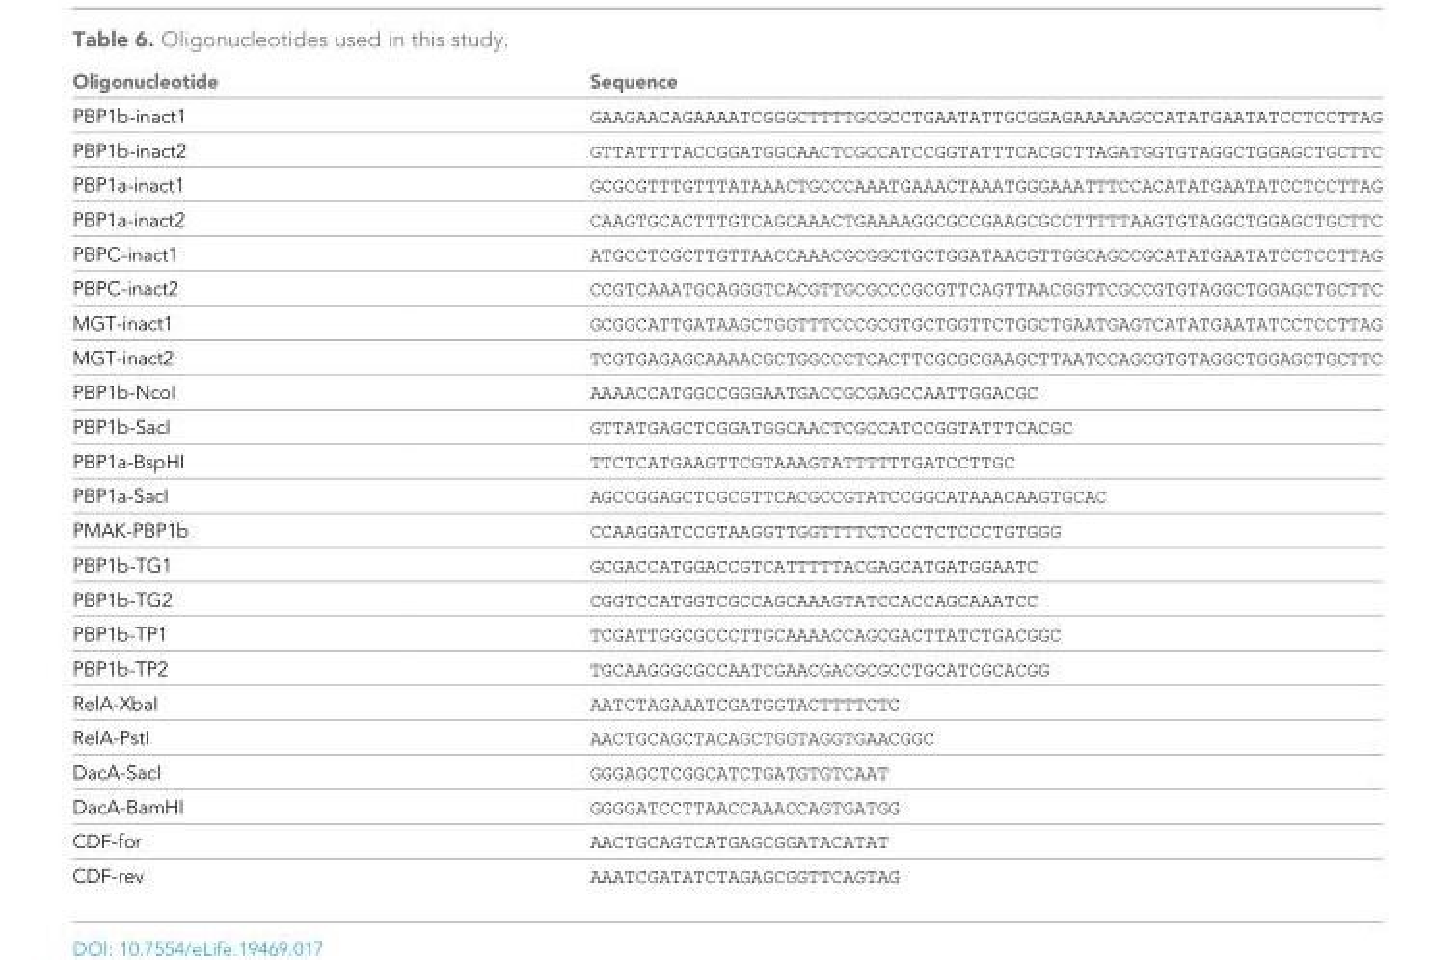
<table><thead><tr><td>Oligonucleotide</td><td>Sequence</td></tr></thead><tbody><tr><td>PBP1b-inact1</td><td>GAAGAACAGAAAATCGGGCTTTTGCGCCTGAATATTGCGGAGAAAAAGCCATATGAATATCCTCCTTAG</td></tr><tr><td>PBP1b-inact2</td><td>GTTATTTTACCGGATGGCAACTCGCCATCCGGTATTTCACGCTTAGATGGTGTAGGCTGGAGCTGCTTC</td></tr><tr><td>PBP1a-inact1</td><td>GCGCGTTTGTTTATAAACTGCCCAAATGAAACTAAATGGGAAATTTCCACATATGAATATCCTCCTTAG</td></tr><tr><td>PBP1a-inact2</td><td>CAAGTGCACTTTGTCAGCAAACTGAAAAGGCGCCGAAGCGCCTTTTTAAGTGTAGGCTGGAGCTGCTTC</td></tr><tr><td>PBPC-inact1</td><td>ATGCCTCGCTTGTTAACCAAACGCGGCTGCTGGATAACGTTGGCAGCCGCATATGAATATCCTCCTTAG</td></tr><tr><td>PBPC-inact2</td><td>CCGTCAAATGCAGGGTCACGTTGCGCCCGCGTTCAGTTAACGGTTCGCCGTGTAGGCTGGAGCTGCTTC</td></tr><tr><td>MGT-inact1</td><td>GCGGCATTGATAAGCTGGTTTCCCGCGTGCTGGTTCTGGCTGAATGAGTCATATGAATATCCTCCTTAG</td></tr><tr><td>MGT-inact2</td><td>TCGTGAGAGCAAAACGCTGGCCCTCACTTCGCGCGAAGCTTAATCCAGCGTGTAGGCTGGAGCTGCTTC</td></tr><tr><td>PBP1b-NcoI</td><td>AAAACCATGGCCGGGAATGACCGCGAGCCAATTGGACGC</td></tr><tr><td>PBP1b-SacI</td><td>GTTATGAGCTCGGATGGCAACTCGCCATCCGGTATTTCACGC</td></tr><tr><td>PBP1a-BspHI</td><td>TTCTCATGAAGTTCGTAAAGTATTTTTTGATCCTTGC</td></tr><tr><td>PBP1a-SacI</td><td>AGCCGGAGCTCGCGTTCACGCCGTATCCGGCATAAACAAGTGCAC</td></tr><tr><td>PMAK-PBP1b</td><td>CCAAGGATCCGTAAGGTTGGTTTTCTCCCTCTCCCTGTGGG</td></tr><tr><td>PBP1b-TG1</td><td>GCGACCATGGACCGTCATTTTTACGAGCATGATGGAATC</td></tr><tr><td>PBP1b-TG2</td><td>CGGTCCATGGTCGCCAGCAAAGTATCCACCAGCAAATCC</td></tr><tr><td>PBP1b-TP1</td><td>TCGATTGGCGCCCTTGCAAAACCAGCGACTTATCTGACGGC</td></tr><tr><td>PBP1b-TP2</td><td>TGCAAGGGCGCCAATCGAACGACGCGCCTGCATCGCACGG</td></tr><tr><td>RelA-XbaI</td><td>AATCTAGAAATCGATGGTACTTTTCTC</td></tr><tr><td>RelA-PstI</td><td>AACTGCAGCTACAGCTGGTAGGTGAACGGC</td></tr><tr><td>DacA-SacI</td><td>GGGAGCTCGGCATCTGATGTGTCAAT</td></tr><tr><td>DacA-BamHI</td><td>GGGGATCCTTAACCAAACCAGTGATGG</td></tr><tr><td>CDF-for</td><td>AACTGCAGTCATGAGCGGATACATAT</td></tr><tr><td>CDF-rev</td><td>AAATCGATATCTAGAGCGGTTCAGTAG</td></tr></tbody></table>